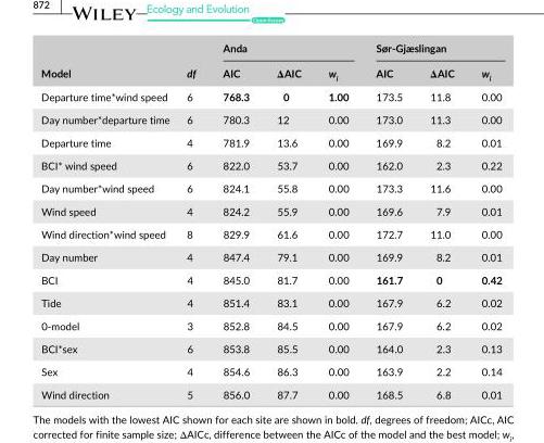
<table><thead><tr><td rowspan="2">Model</td><td rowspan="2">df</td><td colspan="3">Anda</td><td colspan="3">Sør- Gjæslingan</td></tr><tr><td>AIC</td><td>ΔAIC</td><td>w<sub>i</sub></td><td>AIC</td><td>ΔAIC</td><td>w<sub>i</sub></td></tr></thead><tbody><tr><td>Departure time*wind speed</td><td>6</td><td>768.3</td><td>0</td><td>1.00</td><td>173.5</td><td>11.8</td><td>0.00</td></tr><tr><td>Day number*departure time</td><td>6</td><td>780.3</td><td>12</td><td>0.00</td><td>173.0</td><td>11.3</td><td>0.00</td></tr><tr><td>Departure time</td><td>4</td><td>781.9</td><td>13.6</td><td>0.00</td><td>169.9</td><td>8.2</td><td>0.01</td></tr><tr><td>BCI* wind speed</td><td>6</td><td>822.0</td><td>53.7</td><td>0.00</td><td>162.0</td><td>2.3</td><td>0.22</td></tr><tr><td>Day number*wind speed</td><td>6</td><td>824.1</td><td>55.8</td><td>0.00</td><td>173.3</td><td>11.6</td><td>0.00</td></tr><tr><td>Wind speed</td><td>4</td><td>824.2</td><td>55.9</td><td>0.00</td><td>169.6</td><td>7.9</td><td>0.01</td></tr><tr><td>Wind direction*wind speed</td><td>8</td><td>829.9</td><td>61.6</td><td>0.00</td><td>172.7</td><td>11.0</td><td>0.00</td></tr><tr><td>Day number</td><td>4</td><td>847.4</td><td>79.1</td><td>0.00</td><td>169.9</td><td>8.2</td><td>0.01</td></tr><tr><td>BCI</td><td>4</td><td>845.0</td><td>81.7</td><td>0.00</td><td>161.7</td><td>0</td><td>0.42</td></tr><tr><td>Tide</td><td>4</td><td>851.4</td><td>83.1</td><td>0.00</td><td>167.9</td><td>6.2</td><td>0.02</td></tr><tr><td>0- model</td><td>3</td><td>852.8</td><td>84.5</td><td>0.00</td><td>167.9</td><td>6.2</td><td>0.02</td></tr><tr><td>BCI*sex</td><td>6</td><td>853.8</td><td>85.5</td><td>0.00</td><td>164.0</td><td>2.3</td><td>0.13</td></tr><tr><td>Sex</td><td>4</td><td>854.6</td><td>86.3</td><td>0.00</td><td>163.9</td><td>2.2</td><td>0.14</td></tr><tr><td>Wind direction</td><td>5</td><td>856.0</td><td>87.7</td><td>0.00</td><td>168.5</td><td>6.8</td><td>0.01</td></tr></tbody></table>